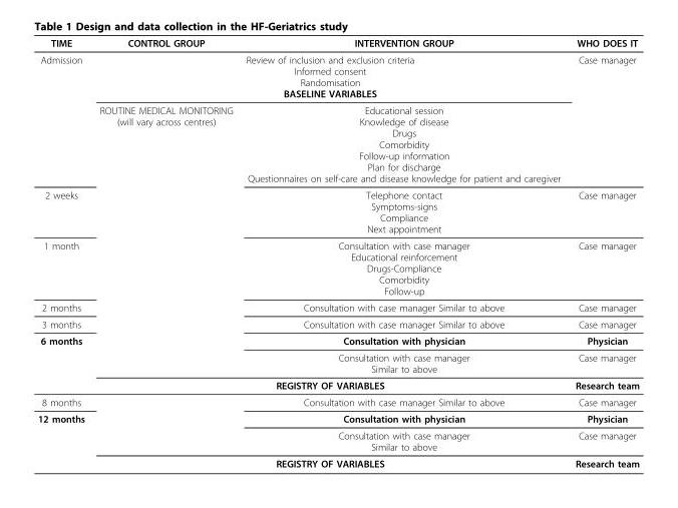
<table><thead><tr><td>TIME</td><td>CONTROL GROUP</td><td>INTERVENTION GROUP</td><td>WHO DOES IT</td></tr></thead><tbody><tr><td rowspan="2">Admission</td><td colspan="2">Review of inclusion and exclusion criteria Informed consent Randomisation BASELINE VARIABLES</td><td>Case manager</td></tr><tr><td>ROUTINE MEDICAL MONITORING (will vary across centres)</td><td>Educational session Knowledge of disease Drugs Comorbidity Follow-up information Plan for discharge Questionnaires on self-care and disease knowledge for patient and caregiver</td><td></td></tr><tr><td>2 weeks</td><td></td><td>Telephone contact Symptoms-signs Compliance Next appointment</td><td>Case manager</td></tr><tr><td>1 month</td><td></td><td>Consultation with case manager Educational reinforcement Drugs-Compliance Comorbidity Follow-up</td><td>Case manager</td></tr><tr><td>2 months</td><td></td><td>Consultation with case manager Similar to above</td><td>Case manager</td></tr><tr><td>3 months</td><td></td><td>Consultation with case manager Similar to above</td><td>Case manager</td></tr><tr><td rowspan="3">6 months</td><td></td><td>Consultation with physician</td><td>Physician</td></tr><tr><td></td><td>Consultation with case manager Similar to above</td><td>Case manager</td></tr><tr><td colspan="2">REGISTRY OF VARIABLES</td><td>Research team</td></tr><tr><td>8 months</td><td></td><td>Consultation with case manager Similar to above</td><td>Case manager</td></tr><tr><td rowspan="3">12 months</td><td></td><td>Consultation with physician</td><td>Physician</td></tr><tr><td></td><td>Consultation with case manager Similar to above</td><td>Case manager</td></tr><tr><td colspan="2">REGISTRY OF VARIABLES</td><td>Research team</td></tr></tbody></table>